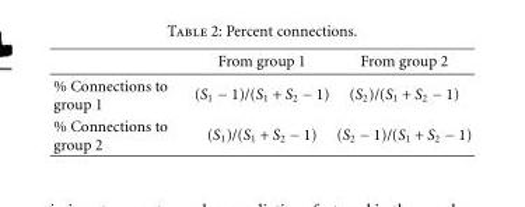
<table><thead><tr><td></td><td>From group 1</td><td>From group 2</td></tr></thead><tbody><tr><td>% Connections to group 1</td><td>(S<sub>1</sub> − 1)/(S<sub>1</sub> + S<sub>2</sub> − 1)</td><td>(S<sub>2</sub>)/(S<sub>1</sub> + S<sub>2</sub> − 1)</td></tr><tr><td>% Connections to group 2</td><td>(S<sub>1</sub>)/(S<sub>1</sub> + S<sub>2</sub> − 1)</td><td>(S<sub>2</sub> − 1)/(S<sub>1</sub> + S<sub>2</sub> − 1)</td></tr></tbody></table>